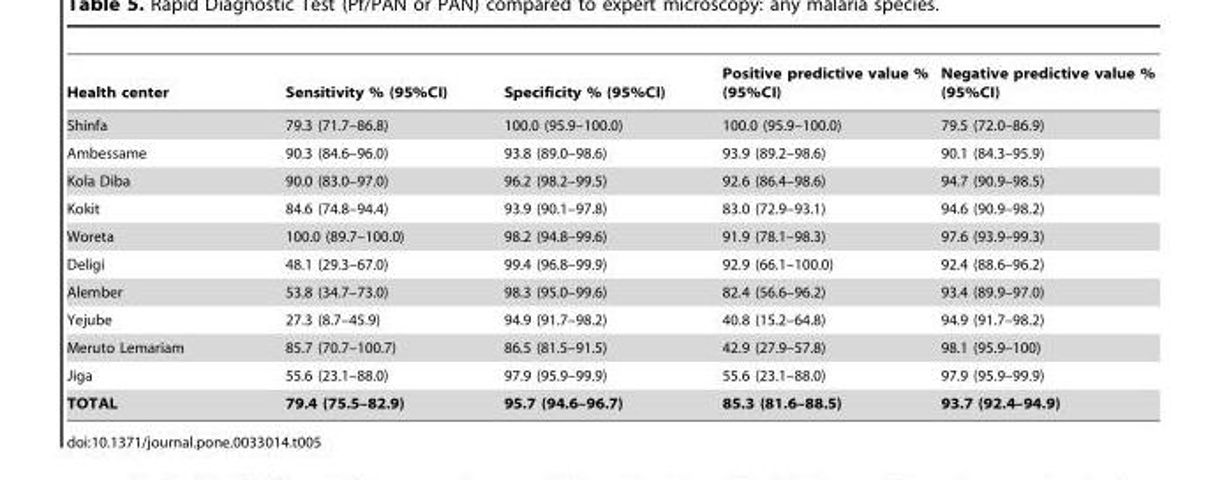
<table><thead><tr><td>Health center</td><td>Sensitivity % (95%CI)</td><td>Specificity % (95%CI)</td><td>Positive predictive value % (95%CI)</td><td>Negative predictive value % (95%CI)</td></tr></thead><tbody><tr><td>Shinfa</td><td>79.3 (71.7–86.8)</td><td>100.0 (95.9–100.0)</td><td>100.0 (95.9–100.0)</td><td>79.5 (72.0–86.9)</td></tr><tr><td>Ambessame</td><td>90.3 (84.6–96.0)</td><td>93.8 (89.0–98.6)</td><td>93.9 (89.2–98.6)</td><td>90.1 (84.3–95.9)</td></tr><tr><td>Kola Diba</td><td>90.0 (83.0–97.0)</td><td>96.2 (98.2–99.5)</td><td>92.6 (86.4–98.6)</td><td>94.7 (90.9–98.5)</td></tr><tr><td>Kokit</td><td>84.6 (74.8–94.4)</td><td>93.9 (90.1–97.8)</td><td>83.0 (72.9–93.1)</td><td>94.6 (90.9–98.2)</td></tr><tr><td>Woreta</td><td>100.0 (89.7–100.0)</td><td>98.2 (94.8–99.6)</td><td>91.9 (78.1–98.3)</td><td>97.6 (93.9–99.3)</td></tr><tr><td>Deligi</td><td>48.1 (29.3–67.0)</td><td>99.4 (96.8–99.9)</td><td>92.9 (66.1–100.0)</td><td>92.4 (88.6–96.2)</td></tr><tr><td>Alember</td><td>53.8 (34.7–73.0)</td><td>98.3 (95.0–99.6)</td><td>82.4 (56.6–96.2)</td><td>93.4 (89.9–97.0)</td></tr><tr><td>Yejube</td><td>27.3 (8.7–45.9)</td><td>94.9 (91.7–98.2)</td><td>40.8 (15.2–64.8)</td><td>94.9 (91.7–98.2)</td></tr><tr><td>Meruto Lemariam</td><td>85.7 (70.7–100.7)</td><td>86.5 (81.5–91.5)</td><td>42.9 (27.9–57.8)</td><td>98.1 (95.9–100)</td></tr><tr><td>Jiga</td><td>55.6 (23.1–88.0)</td><td>97.9 (95.9–99.9)</td><td>55.6 (23.1–88.0)</td><td>97.9 (95.9–99.9)</td></tr><tr><td>TOTAL</td><td>79.4 (75.5–82.9)</td><td>95.7 (94.6–96.7)</td><td>85.3 (81.6–88.5)</td><td>93.7 (92.4–94.9)</td></tr></tbody></table>